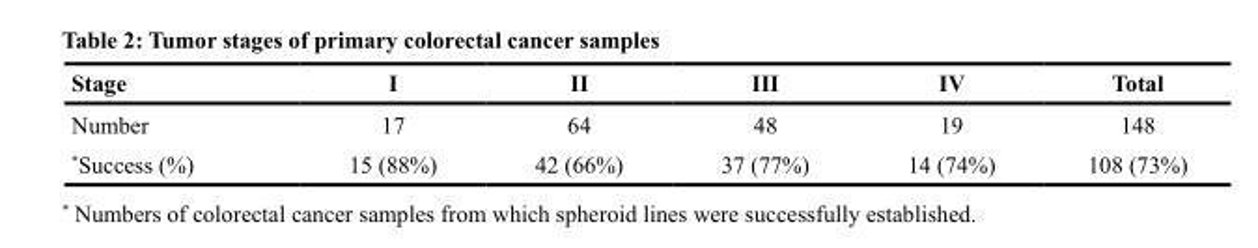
<table><thead><tr><td>Stage</td><td>I</td><td>II</td><td>III</td><td>IV</td><td>Total</td></tr></thead><tbody><tr><td>Number</td><td>17</td><td>64</td><td>48</td><td>19</td><td>148</td></tr><tr><td>*Success (%)</td><td>15 (88%)</td><td>42 (66%)</td><td>37 (77%)</td><td>14 (74%)</td><td>108 (73%)</td></tr></tbody></table>